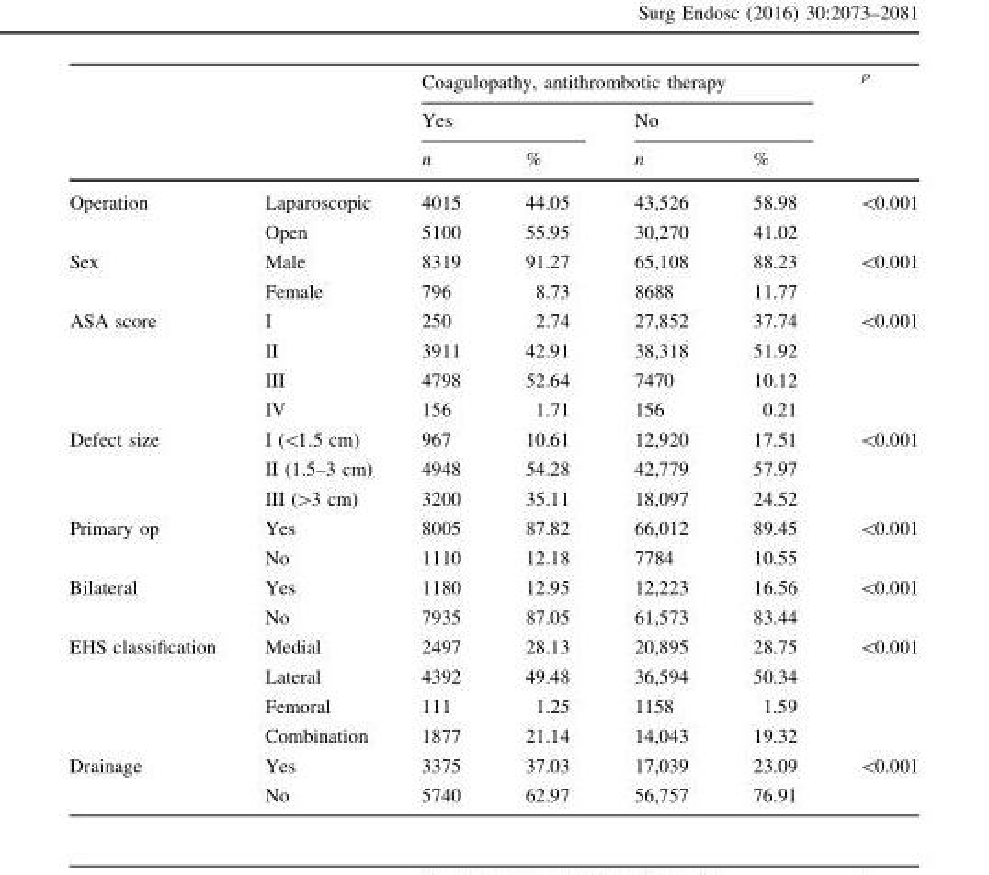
<table><thead><tr><td rowspan="3"></td><td rowspan="3"></td><td colspan="4">Coagulopathy, antithrombotic therapy</td><td rowspan="3"><sup>p</sup></td></tr><tr><td colspan="2">Yes</td><td colspan="2">No</td></tr><tr><td>n</td><td>%</td><td>n</td><td>%</td></tr></thead><tbody><tr><td rowspan="2">Operation</td><td>Laparoscopic</td><td>4015</td><td>44.05</td><td>43,526</td><td>58.98</td><td rowspan="2">&lt;0.001</td></tr><tr><td>Open</td><td>5100</td><td>55.95</td><td>30,270</td><td>41.02</td></tr><tr><td rowspan="2">Sex</td><td>Male</td><td>8319</td><td>91.27</td><td>65,108</td><td>88.23</td><td rowspan="2">&lt;0.001</td></tr><tr><td>Female</td><td>796</td><td>8.73</td><td>8688</td><td>11.77</td></tr><tr><td rowspan="4">ASA score</td><td>I</td><td>250</td><td>2.74</td><td>27,852</td><td>37.74</td><td rowspan="4">&lt;0.001</td></tr><tr><td>II</td><td>3911</td><td>42.91</td><td>38,318</td><td>51.92</td></tr><tr><td>III</td><td>4798</td><td>52.64</td><td>7470</td><td>10.12</td></tr><tr><td>IV</td><td>156</td><td>1.71</td><td>156</td><td>0.21</td></tr><tr><td rowspan="3">Defect size</td><td>I (&lt;1.5 cm)</td><td>967</td><td>10.61</td><td>12,920</td><td>17.51</td><td rowspan="3">&lt;0.001</td></tr><tr><td>II (1.5–3 cm)</td><td>4948</td><td>54.28</td><td>42,779</td><td>57.97</td></tr><tr><td>III (&gt;3 cm)</td><td>3200</td><td>35.11</td><td>18,097</td><td>24.52</td></tr><tr><td rowspan="2">Primary op</td><td>Yes</td><td>8005</td><td>87.82</td><td>66,012</td><td>89.45</td><td rowspan="2">&lt;0.001</td></tr><tr><td>No</td><td>1110</td><td>12.18</td><td>7784</td><td>10.55</td></tr><tr><td rowspan="2">Bilateral</td><td>Yes</td><td>1180</td><td>12.95</td><td>12,223</td><td>16.56</td><td rowspan="2">&lt;0.001</td></tr><tr><td>No</td><td>7935</td><td>87.05</td><td>61,573</td><td>83.44</td></tr><tr><td rowspan="4">EHS classification</td><td>Medial</td><td>2497</td><td>28.13</td><td>20,895</td><td>28.75</td><td rowspan="4">&lt;0.001</td></tr><tr><td>Lateral</td><td>4392</td><td>49.48</td><td>36,594</td><td>50.34</td></tr><tr><td>Femoral</td><td>111</td><td>1.25</td><td>1158</td><td>1.59</td></tr><tr><td>Combination</td><td>1877</td><td>21.14</td><td>14,043</td><td>19.32</td></tr><tr><td rowspan="2">Drainage</td><td>Yes</td><td>3375</td><td>37.03</td><td>17,039</td><td>23.09</td><td rowspan="2">&lt;0.001</td></tr><tr><td>No</td><td>5740</td><td>62.97</td><td>56,757</td><td>76.91</td></tr></tbody></table>